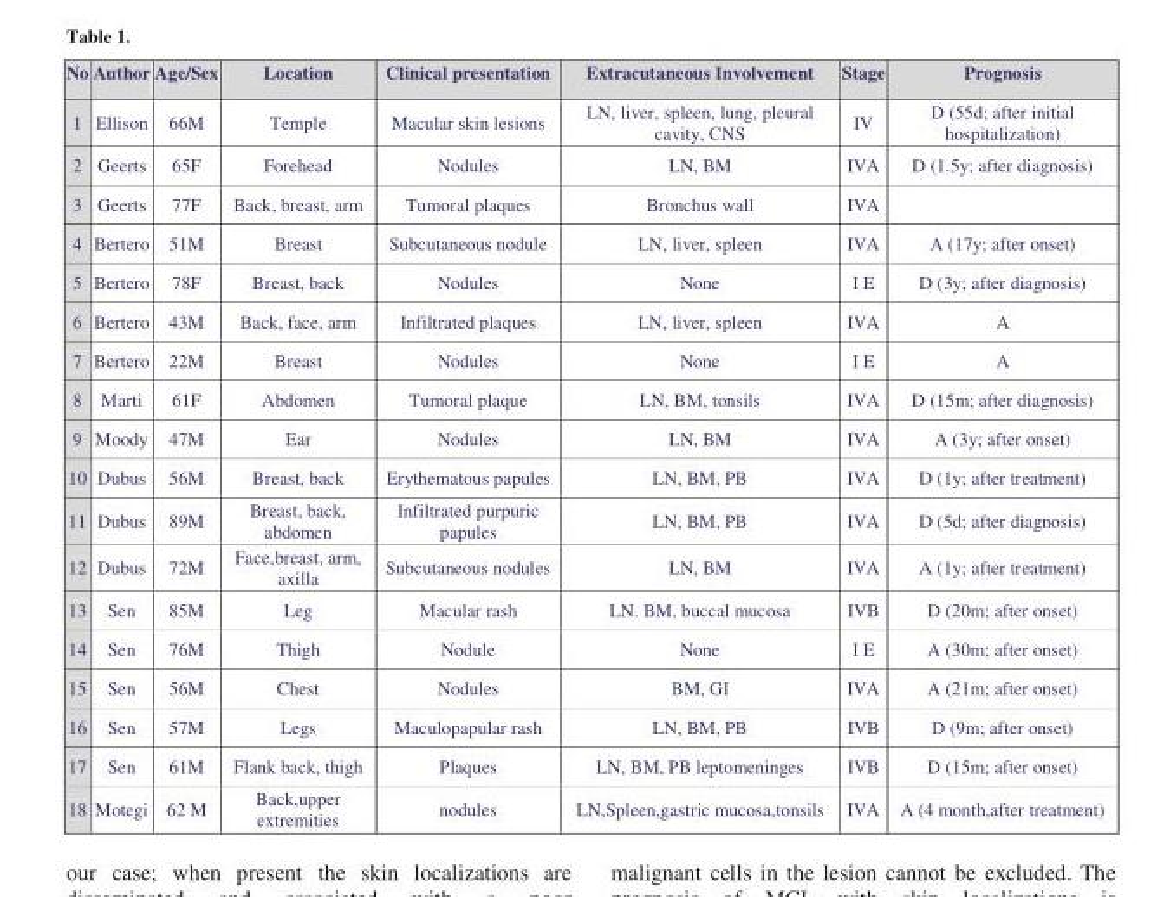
<table><thead><tr><td>No</td><td>Author</td><td>Age/Sex</td><td>Location</td><td>Clinical presentation</td><td>Extracutaneous Involvement</td><td>Stage</td><td>Prognosis</td></tr></thead><tbody><tr><td>1</td><td>Ellison</td><td>66M</td><td>Temple</td><td>Macular skin lesions</td><td>LN, liver, spleen, lung, pleural cavity, CNS</td><td>IV</td><td>D (55d; after initial hospitalization)</td></tr><tr><td>2</td><td>Geerts</td><td>65F</td><td>Forehead</td><td>Nodules</td><td>LN, BM</td><td>IVA</td><td>D (1.5y; after diagnosis)</td></tr><tr><td>3</td><td>Geerts</td><td>77F</td><td>Back, breast, arm</td><td>Tumoral plaques</td><td>Bronchus wall</td><td>IVA</td><td></td></tr><tr><td>4</td><td>Bertero</td><td>51M</td><td>Breast</td><td>Subcutaneous nodule</td><td>LN, liver, spleen</td><td>IVA</td><td>A (17y; after onset)</td></tr><tr><td>5</td><td>Bertero</td><td>78F</td><td>Breast, back</td><td>Nodules</td><td>None</td><td>I E</td><td>D (3y; after diagnosis)</td></tr><tr><td>6</td><td>Bertero</td><td>43M</td><td>Back, face, arm</td><td>Infiltrated plaques</td><td>LN, liver, spleen</td><td>IVA</td><td>A</td></tr><tr><td>7</td><td>Bertero</td><td>22M</td><td>Breast</td><td>Nodules</td><td>None</td><td>I E</td><td>A</td></tr><tr><td>8</td><td>Marti</td><td>61F</td><td>Abdomen</td><td>Tumoral plaque</td><td>LN, BM, tonsils</td><td>IVA</td><td>D (15m; after diagnosis)</td></tr><tr><td>9</td><td>Moody</td><td>47M</td><td>Ear</td><td>Nodules</td><td>LN, BM</td><td>IVA</td><td>A (3y; after onset)</td></tr><tr><td>10</td><td>Dubus</td><td>56M</td><td>Breast, back</td><td>Erythematous papules</td><td>LN, BM, PB</td><td>IVA</td><td>D (1y; after treatment)</td></tr><tr><td>11</td><td>Dubus</td><td>89M</td><td>Breast, back, abdomen</td><td>Infiltrated purpuric papules</td><td>LN, BM, PB</td><td>IVA</td><td>D (5d; after diagnosis)</td></tr><tr><td>12</td><td>Dubus</td><td>72M</td><td>Face,breast, arm, axilla</td><td>Subcutaneous nodules</td><td>LN, BM</td><td>IVA</td><td>A (1y; after treatment)</td></tr><tr><td>13</td><td>Sen</td><td>85M</td><td>Leg</td><td>Macular rash</td><td>LN. BM, buccal mucosa</td><td>IVB</td><td>D (20m; after onset)</td></tr><tr><td>14</td><td>Sen</td><td>76M</td><td>Thigh</td><td>Nodule</td><td>None</td><td>I E</td><td>A (30m; after onset)</td></tr><tr><td>15</td><td>Sen</td><td>56M</td><td>Chest</td><td>Nodules</td><td>BM, GI</td><td>IVA</td><td>A (21m; after onset)</td></tr><tr><td>16</td><td>Sen</td><td>57M</td><td>Legs</td><td>Maculopapular rash</td><td>LN, BM, PB</td><td>IVB</td><td>D (9m; after onset)</td></tr><tr><td>17</td><td>Sen</td><td>61M</td><td>Flank back, thigh</td><td>Plaques</td><td>LN, BM, PB leptomeninges</td><td>IVB</td><td>D (15m; after onset)</td></tr><tr><td>18</td><td>Motegi</td><td>62 M</td><td>Back,upper extremities</td><td>nodules</td><td>LN,Spleen,gastric mucosa,tonsils</td><td>IVA</td><td>A (4 month,after treatment)</td></tr></tbody></table>